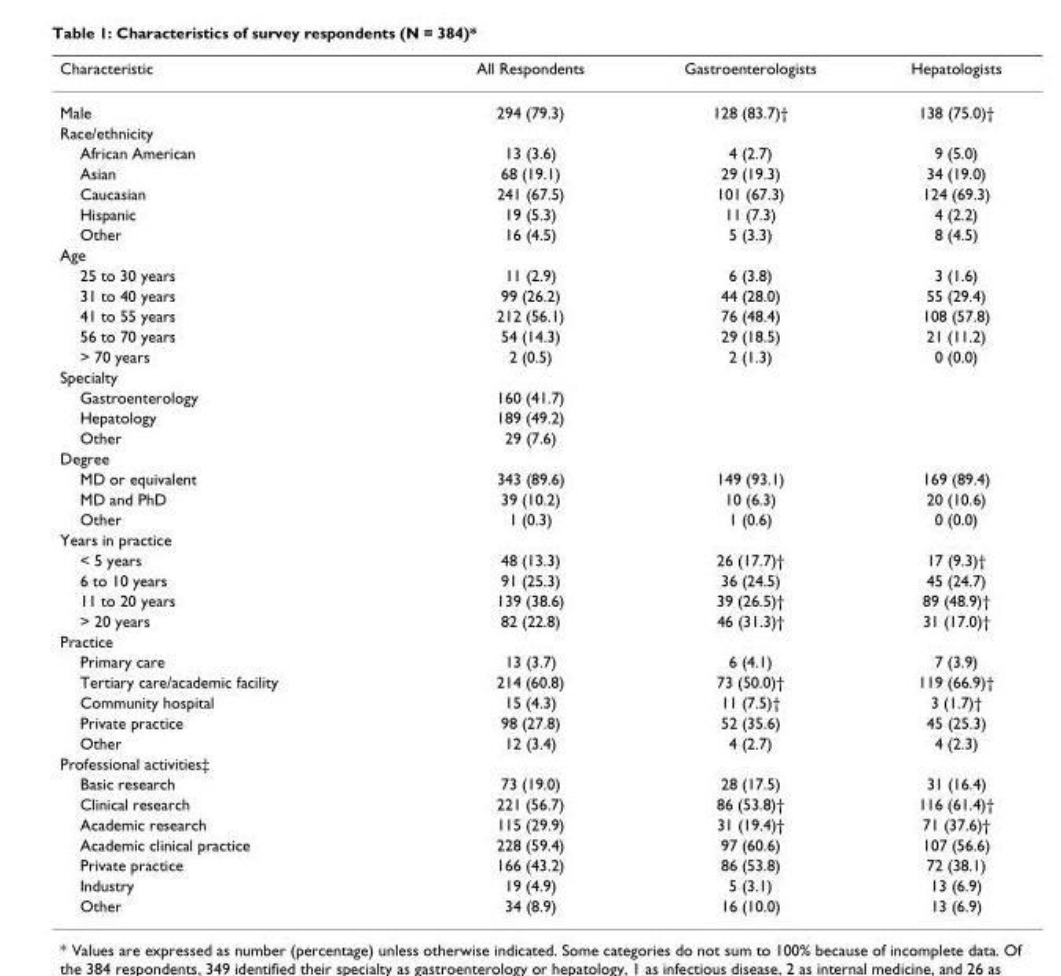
<table><thead><tr><td>Characteristic</td><td>All Respondents</td><td>Gastroenterologists</td><td>Hepatologists</td></tr></thead><tbody><tr><td>Male</td><td>294 (79.3)</td><td>128 (83.7)†</td><td>138 (75.0)†</td></tr><tr><td colspan="4">Race/ethnicity</td></tr><tr><td>African American</td><td>13 (3.6)</td><td>4 (2.7)</td><td>9 (5.0)</td></tr><tr><td>Asian</td><td>68 (19.1)</td><td>29 (19.3)</td><td>34 (19.0)</td></tr><tr><td>Caucasian</td><td>241 (67.5)</td><td>101 (67.3)</td><td>124 (69.3)</td></tr><tr><td>Hispanic</td><td>19 (5.3)</td><td>11 (7.3)</td><td>4 (2.2)</td></tr><tr><td>Other</td><td>16 (4.5)</td><td>5 (3.3)</td><td>8 (4.5)</td></tr><tr><td colspan="4">Age</td></tr><tr><td>25 to 30 years</td><td>11 (2.9)</td><td>6 (3.8)</td><td>3 (1.6)</td></tr><tr><td>31 to 40 years</td><td>99 (26.2)</td><td>44 (28.0)</td><td>55 (29.4)</td></tr><tr><td>41 to 55 years</td><td>212 (56.1)</td><td>76 (48.4)</td><td>108 (57.8)</td></tr><tr><td>56 to 70 years</td><td>54 (14.3)</td><td>29 (18.5)</td><td>21 (11.2)</td></tr><tr><td>&gt; 70 years</td><td>2 (0.5)</td><td>2 (1.3)</td><td>0 (0.0)</td></tr><tr><td colspan="4">Specialty</td></tr><tr><td>Gastroenterology</td><td>160 (41.7)</td><td></td><td></td></tr><tr><td>Hepatology</td><td>189 (49.2)</td><td></td><td></td></tr><tr><td>Other</td><td>29 (7.6)</td><td></td><td></td></tr><tr><td colspan="4">Degree</td></tr><tr><td>MD or equivalent</td><td>343 (89.6)</td><td>149 (93.1)</td><td>169 (89.4)</td></tr><tr><td>MD and PhD</td><td>39 (10.2)</td><td>10 (6.3)</td><td>20 (10.6)</td></tr><tr><td>Other</td><td>1 (0.3)</td><td>1 (0.6)</td><td>0 (0.0)</td></tr><tr><td colspan="4">Years in practice</td></tr><tr><td>&lt; 5 years</td><td>48 (13.3)</td><td>26 (17.7)†</td><td>17 (9.3)†</td></tr><tr><td>6 to 10 years</td><td>91 (25.3)</td><td>36 (24.5)</td><td>45 (24.7)</td></tr><tr><td>11 to 20 years</td><td>139 (38.6)</td><td>39 (26.5)†</td><td>89 (48.9)†</td></tr><tr><td>&gt; 20 years</td><td>82 (22.8)</td><td>46 (31.3)†</td><td>31 (17.0)†</td></tr><tr><td colspan="4">Practice</td></tr><tr><td>Primary care</td><td>13 (3.7)</td><td>6 (4.1)</td><td>7 (3.9)</td></tr><tr><td>Tertiary care/academic facility</td><td>214 (60.8)</td><td>73 (50.0)†</td><td>119 (66.9)†</td></tr><tr><td>Community hospital</td><td>15 (4.3)</td><td>11 (7.5)†</td><td>3 (1.7)†</td></tr><tr><td>Private practice</td><td>98 (27.8)</td><td>52 (35.6)</td><td>45 (25.3)</td></tr><tr><td>Other</td><td>12 (3.4)</td><td>4 (2.7)</td><td>4 (2.3)</td></tr><tr><td colspan="4">Professional activities‡</td></tr><tr><td>Basic research</td><td>73 (19.0)</td><td>28 (17.5)</td><td>31 (16.4)</td></tr><tr><td>Clinical research</td><td>221 (56.7)</td><td>86 (53.8)†</td><td>116 (61.4)†</td></tr><tr><td>Academic research</td><td>115 (29.9)</td><td>31 (19.4)†</td><td>71 (37.6)†</td></tr><tr><td>Academic clinical practice</td><td>228 (59.4)</td><td>97 (60.6)</td><td>107 (56.6)</td></tr><tr><td>Private practice</td><td>166 (43.2)</td><td>86 (53.8)</td><td>72 (38.1)</td></tr><tr><td>Industry</td><td>19 (4.9)</td><td>5 (3.1)</td><td>13 (6.9)</td></tr><tr><td>Other</td><td>34 (8.9)</td><td>16 (10.0)</td><td>13 (6.9)</td></tr></tbody></table>